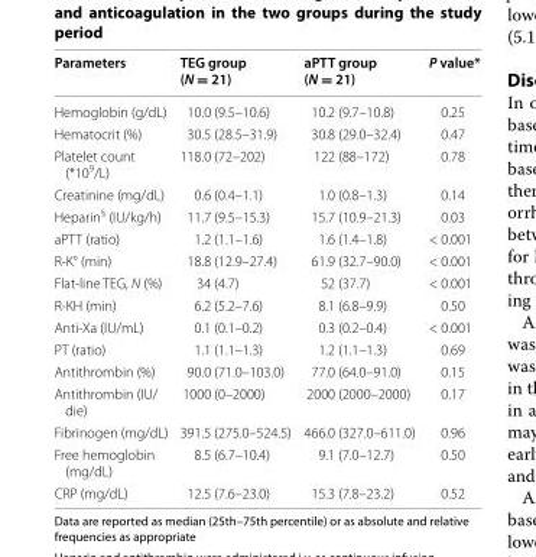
<table><thead><tr><td>Parameters</td><td>TEG group (N = 21)</td><td>aPTT group (N = 21)</td><td>P value*</td></tr></thead><tbody><tr><td>Hemoglobin (g/dL)</td><td>10.0 (9.5–10.6)</td><td>10.2 (9.7–10.8)</td><td>0.25</td></tr><tr><td>Hematocrit (%)</td><td>30.5 (28.5–31.9)</td><td>30.8 (29.0–32.4)</td><td>0.47</td></tr><tr><td>Platelet count (*10<sup>9</sup>/L)</td><td>118.0 (72–202)</td><td>122 (88–172)</td><td>0.78</td></tr><tr><td>Creatinine (mg/dL)</td><td>0.6 (0.4–1.1)</td><td>1.0 (0.8–1.3)</td><td>0.14</td></tr><tr><td>Heparin<sup>§</sup> (IU/kg/h)</td><td>11.7 (9.5–15.3)</td><td>15.7 (10.9–21.3)</td><td>0.03</td></tr><tr><td>aPTT (ratio)</td><td>1.2 (1.1–1.6)</td><td>1.6 (1.4–1.8)</td><td>&lt; 0.001</td></tr><tr><td>R-K° (min)</td><td>18.8 (12.9–27.4)</td><td>61.9 (32.7–90.0)</td><td>&lt; 0.001</td></tr><tr><td>Flat-line TEG, N (%)</td><td>34 (4.7)</td><td>52 (37.7)</td><td>&lt; 0.001</td></tr><tr><td>R-KH (min)</td><td>6.2 (5.2–7.6)</td><td>8.1 (6.8–9.9)</td><td>0.50</td></tr><tr><td>Anti-Xa (IU/mL)</td><td>0.1 (0.1–0.2)</td><td>0.3 (0.2–0.4)</td><td>&lt; 0.001</td></tr><tr><td>PT (ratio)</td><td>1.1 (1.1–1.3)</td><td>1.2 (1.1–1.3)</td><td>0.69</td></tr><tr><td>Antithrombin (%)</td><td>90.0 (71.0–103.0)</td><td>77.0 (64.0–91.0)</td><td>0.15</td></tr><tr><td>Antithrombin (IU/ die)</td><td>1000 (0–2000)</td><td>2000 (2000–2000)</td><td>0.17</td></tr><tr><td>Fibrinogen (mg/dL)</td><td>391.5 (275.0–524.5)</td><td>466.0 (327.0–611.0)</td><td>0.96</td></tr><tr><td>Free hemoglobin (mg/dL)</td><td>8.5 (6.7–10.4)</td><td>9.1 (7.0–12.7)</td><td>0.50</td></tr><tr><td>CRP (mg/dL)</td><td>12.5 (7.6–23.0)</td><td>15.3 (7.8–23.2)</td><td>0.52</td></tr></tbody></table>